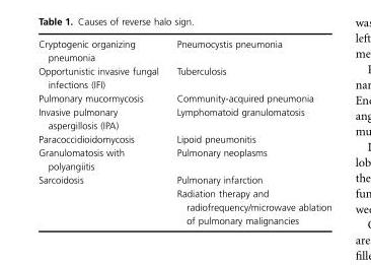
<table><tbody><tr><td>Cryptogenic organizing pneumonia</td><td>Pneumocystis pneumonia</td></tr><tr><td>Opportunistic invasive fungal infections (IFI)</td><td>Tuberculosis</td></tr><tr><td>Pulmonary mucormycosis</td><td>Community-acquired pneumonia</td></tr><tr><td>Invasive pulmonary aspergillosis (IPA)</td><td>Lymphomatoid granulomatosis</td></tr><tr><td>Paracoccidioidomycosis</td><td>Lipoid pneumonitis</td></tr><tr><td>Granulomatosis with polyangiitis</td><td>Pulmonary neoplasms</td></tr><tr><td rowspan="2">Sarcoidosis</td><td>Pulmonary infarction</td></tr><tr><td>Radiation therapy and radiofrequency/microwave ablation of pulmonary malignancies</td></tr></tbody></table>